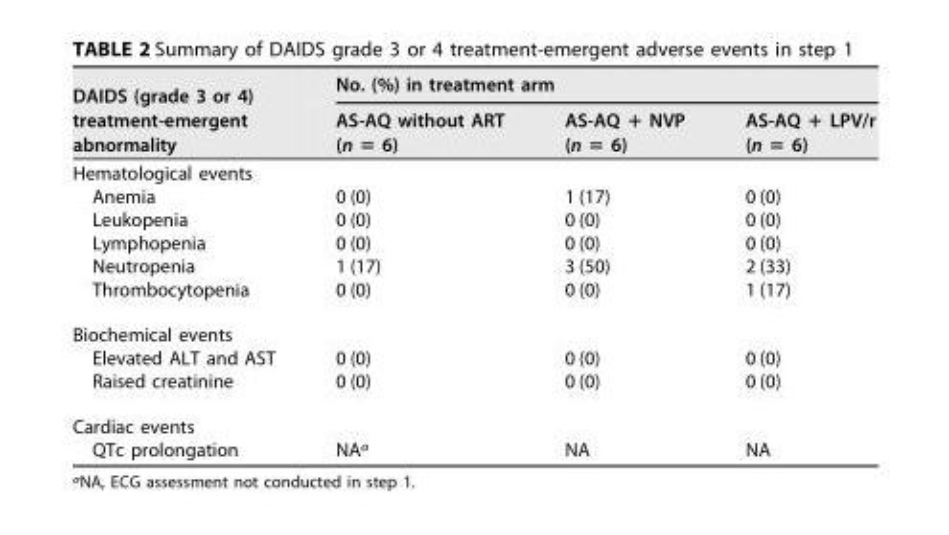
<table><thead><tr><td rowspan="2">DAIDS (grade 3 or 4) treatment-emergent abnormality</td><td colspan="3">No. (%) in treatment arm</td></tr><tr><td>AS-AQ without ART (n = 6)</td><td>AS-AQ + NVP (n = 6)</td><td>AS-AQ + LPV/r (n = 6)</td></tr></thead><tbody><tr><td colspan="4">Hematological events</td></tr><tr><td>Anemia</td><td>0 (0)</td><td>1 (17)</td><td>0 (0)</td></tr><tr><td>Leukopenia</td><td>0 (0)</td><td>0 (0)</td><td>0 (0)</td></tr><tr><td>Lymphopenia</td><td>0 (0)</td><td>0 (0)</td><td>0 (0)</td></tr><tr><td>Neutropenia</td><td>1 (17)</td><td>3 (50)</td><td>2 (33)</td></tr><tr><td>Thrombocytopenia</td><td>0 (0)</td><td>0 (0)</td><td>1 (17)</td></tr><tr><td colspan="4">Biochemical events</td></tr><tr><td>Elevated ALT and AST</td><td>0 (0)</td><td>0 (0)</td><td>0 (0)</td></tr><tr><td>Raised creatinine</td><td>0 (0)</td><td>0 (0)</td><td>0 (0)</td></tr><tr><td colspan="4">Cardiac events</td></tr><tr><td>QTc prolongation</td><td>NA<sup>a</sup></td><td>NA</td><td>NA</td></tr></tbody></table>